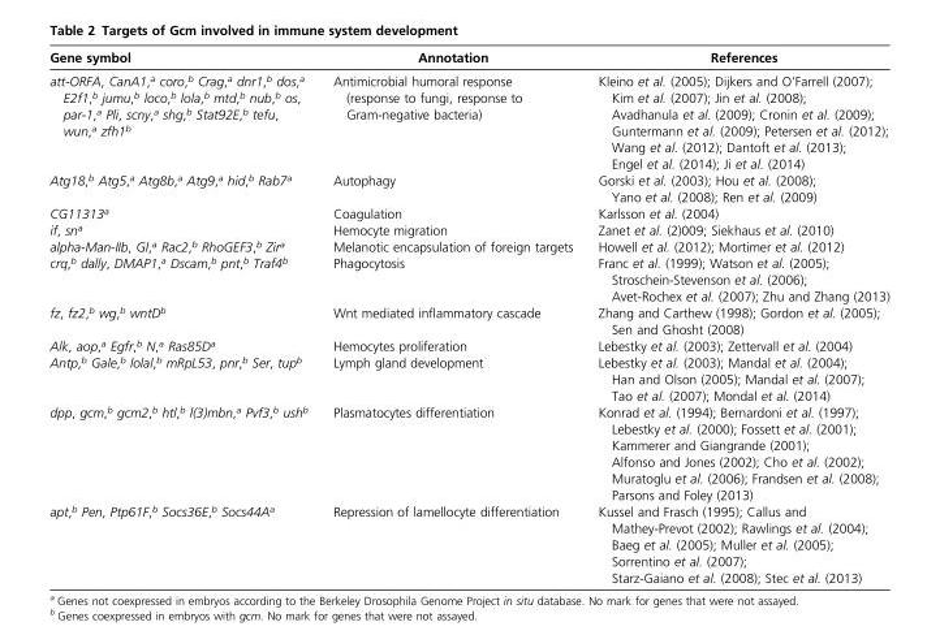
<table><thead><tr><td>Gene symbol</td><td>Annotation</td><td>References</td></tr></thead><tbody><tr><td>att-ORFA, CanA1,a coro,b Crag,a dnr1,b dos,a E2f1,b jumu,b loco,b lola,b mtd,b nub,b os, par-1,a Pli, scny,a shg,b Stat92E,b tefu, wun,a zfh1b</td><td>Antimicrobial humoral response (response to fungi, response to Gram-negative bacteria)</td><td>Kleino et al. (2005); Dijkers and O’Farrell (2007); Kim et al. (2007); Jin et al. (2008); Avadhanula et al. (2009); Cronin et al. (2009); Guntermann et al. (2009); Petersen et al. (2012); Wang et al. (2012); Dantoft et al. (2013); Engel et al. (2014); Ji et al. (2014)</td></tr><tr><td>Atg18,<sup>b</sup> Atg5,<sup>a</sup> Atg8b,<sup>a</sup> Atg9,<sup>a</sup> hid,<sup>b</sup> Rab7<sup>a</sup></td><td>Autophagy</td><td>Gorski et al. (2003); Hou et al. (2008); Yano et al. (2008); Ren et al. (2009)</td></tr><tr><td>CG11313<sup>a</sup></td><td>Coagulation</td><td>Karlsson et al. (2004)</td></tr><tr><td>if, sn<sup>a</sup></td><td>Hemocyte migration</td><td>Zanet et al. (2)009; Siekhaus et al. (2010)</td></tr><tr><td>alpha-Man-IIb, Gl,<sup>a</sup> Rac2,<sup>b</sup> RhoGEF3,<sup>b</sup> Zir<sup>a</sup></td><td>Melanotic encapsulation of foreign targets</td><td>Howell et al. (2012); Mortimer et al. (2012)</td></tr><tr><td>crq,<sup>b</sup> dally, DMAP1,<sup>a</sup> Dscam,<sup>b</sup> pnt,<sup>b</sup> Traf4<sup>b</sup></td><td>Phagocytosis</td><td>Franc et al. (1999); Watson et al. (2005); Stroschein-Stevenson et al. (2006); Avet-Rochex et al. (2007); Zhu and Zhang (2013)</td></tr><tr><td>fz, fz2,<sup>b</sup> wg,<sup>b</sup> wntD<sup>b</sup></td><td>Wnt mediated inflammatory cascade</td><td>Zhang and Carthew (1998); Gordon et al. (2005); Sen and Ghosht (2008)</td></tr><tr><td>Alk, aop,<sup>a</sup> Egfr,<sup>b</sup> N,<sup>a</sup> Ras85D<sup>a</sup></td><td>Hemocytes proliferation</td><td>Lebestky et al. (2003); Zettervall et al. (2004)</td></tr><tr><td>Antp,<sup>b</sup> Gale,<sup>b</sup> lolal,<sup>b</sup> mRpL53, pnr,<sup>b</sup> Ser, tup<sup>b</sup></td><td>Lymph gland development</td><td>Lebestky et al. (2003); Mandal et al. (2004); Han and Olson (2005); Mandal et al. (2007); Tao et al. (2007); Mondal et al. (2014)</td></tr><tr><td>dpp, gcm,<sup>b</sup> gcm2,<sup>b</sup> htl,<sup>b</sup> l(3)mbn,<sup>a</sup> Pvf3,<sup>b</sup> ush<sup>b</sup></td><td>Plasmatocytes differentiation</td><td>Konrad et al. (1994); Bernardoni et al. (1997); Lebestky et al. (2000); Fossett et al. (2001); Kammerer and Giangrande (2001); Alfonso and Jones (2002); Cho et al. (2002); Muratoglu et al. (2006); Frandsen et al. (2008); Parsons and Foley (2013)</td></tr><tr><td>apt,<sup>b</sup> Pen, Ptp61F,<sup>b</sup> Socs36E,<sup>b</sup> Socs44A<sup>a</sup></td><td>Repression of lamellocyte differentiation</td><td>Kussel and Frasch (1995); Callus and Mathey-Prevot (2002); Rawlings et al. (2004); Baeg et al. (2005); Muller et al. (2005); Sorrentino et al. (2007); Starz-Gaiano et al. (2008); Stec et al. (2013)</td></tr></tbody></table>